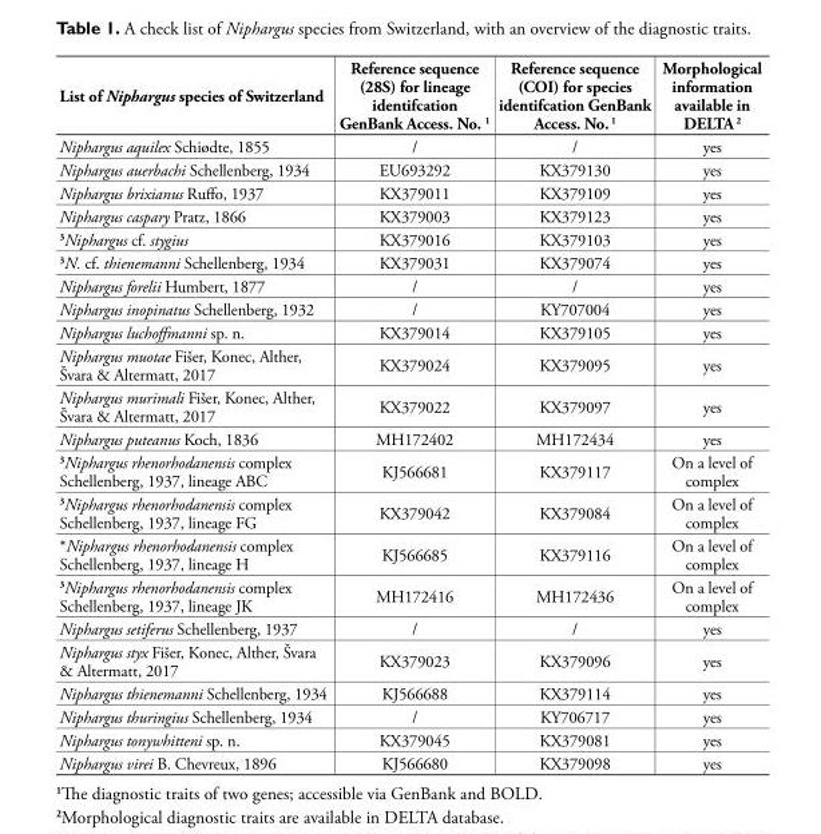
<table><thead><tr><td>List of Niphargus species of Switzerland</td><td>Reference sequence (28S) for lineage identifcation GenBank Access. No. <sup>1</sup></td><td>Reference sequence (COI) for species identifcation GenBank Access. No. <sup>1</sup></td><td>Morphological information available in DELTA <sup>2</sup></td></tr></thead><tbody><tr><td>Niphargus aquilex Schiødte, 1855</td><td>/</td><td>/</td><td>yes</td></tr><tr><td>Niphargus auerbachi Schellenberg, 1934</td><td>EU693292</td><td>KX379130</td><td>yes</td></tr><tr><td>Niphargus brixianus Ruffo, 1937</td><td>KX379011</td><td>KX379109</td><td>yes</td></tr><tr><td>Niphargus caspary Pratz, 1866</td><td>KX379003</td><td>KX379123</td><td>yes</td></tr><tr><td><sup>3</sup>Niphargus cf. stygius</td><td>KX379016</td><td>KX379103</td><td>yes</td></tr><tr><td><sup>3</sup>N. cf. thienemanni Schellenberg, 1934</td><td>KX379031</td><td>KX379074</td><td>yes</td></tr><tr><td>Niphargus forelii Humbert, 1877</td><td>/</td><td>/</td><td>yes</td></tr><tr><td>Niphargus inopinatus Schellenberg, 1932</td><td>/</td><td>KY707004</td><td>yes</td></tr><tr><td>Niphargus luchoffmanni sp. n.</td><td>KX379014</td><td>KX379105</td><td>yes</td></tr><tr><td>Niphargus muotae Fišer, Konec, Alther, Švara &amp; Altermatt, 2017</td><td>KX379024</td><td>KX379095</td><td>yes</td></tr><tr><td>Niphargus murimali Fišer, Konec, Alther, Švara &amp; Altermatt, 2017</td><td>KX379022</td><td>KX379097</td><td>yes</td></tr><tr><td>Niphargus puteanus Koch, 1836</td><td>MH172402</td><td>MH172434</td><td>yes</td></tr><tr><td><sup>3</sup>Niphargus rhenorhodanensis complex Schellenberg, 1937, lineage ABC</td><td>KJ566681</td><td>KX379117</td><td>On a level of complex</td></tr><tr><td><sup>3</sup>Niphargus rhenorhodanensis complex Schellenberg, 1937, lineage FG</td><td>KX379042</td><td>KX379084</td><td>On a level of complex</td></tr><tr><td>*Niphargus rhenorhodanensis complex Schellenberg, 1937, lineage H</td><td>KJ566685</td><td>KX379116</td><td>On a level of complex</td></tr><tr><td><sup>3</sup>Niphargus rhenorhodanensis complex Schellenberg, 1937, lineage JK</td><td>MH172416</td><td>MH172436</td><td>On a level of complex</td></tr><tr><td>Niphargus setiferus Schellenberg, 1937</td><td>/</td><td>/</td><td>yes</td></tr><tr><td>Niphargus styx Fišer, Konec, Alther, Švara &amp; Altermatt, 2017</td><td>KX379023</td><td>KX379096</td><td>yes</td></tr><tr><td>Niphargus thienemanni Schellenberg, 1934</td><td>KJ566688</td><td>KX379114</td><td>yes</td></tr><tr><td>Niphargus thuringius Schellenberg, 1934</td><td>/</td><td>KY706717</td><td>yes</td></tr><tr><td>Niphargus tonywhitteni sp. n.</td><td>KX379045</td><td>KX379081</td><td>yes</td></tr><tr><td>Niphargus virei B. Chevreux, 1896</td><td>KJ566680</td><td>KX379098</td><td>yes</td></tr></tbody></table>